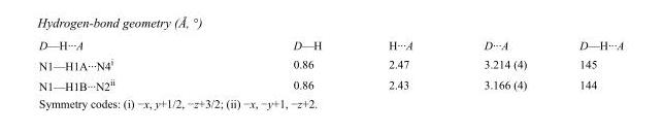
<table><tbody><tr><td>D—H···A</td><td>D—H</td><td>H···A</td><td>D···A</td><td>D—H···A</td></tr><tr><td>N1—H1A···N4<sup>i</sup></td><td>0.86</td><td>2.47</td><td>3.214 (4)</td><td>145</td></tr><tr><td>N1—H1B···N2<sup>ii</sup></td><td>0.86</td><td>2.43</td><td>3.166 (4)</td><td>144</td></tr></tbody></table>